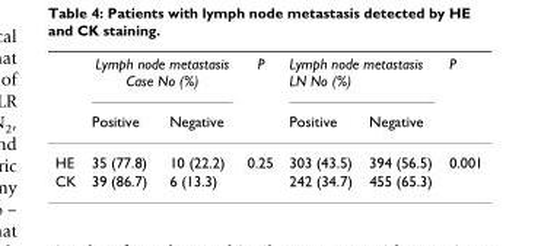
<table><thead><tr><td rowspan="2"></td><td colspan="2">Lymph node metastasis Case No (%)</td><td rowspan="2">P</td><td colspan="2">Lymph node metastasis LN No (%)</td><td rowspan="2">P</td></tr><tr><td>Positive</td><td>Negative</td><td>Positive</td><td>Negative</td></tr></thead><tbody><tr><td>HE</td><td>35 (77.8)</td><td>10 (22.2)</td><td>0.25</td><td>303 (43.5)</td><td>394 (56.5)</td><td>0.001</td></tr><tr><td>CK</td><td>39 (86.7)</td><td>6 (13.3)</td><td></td><td>242 (34.7)</td><td>455 (65.3)</td><td></td></tr></tbody></table>